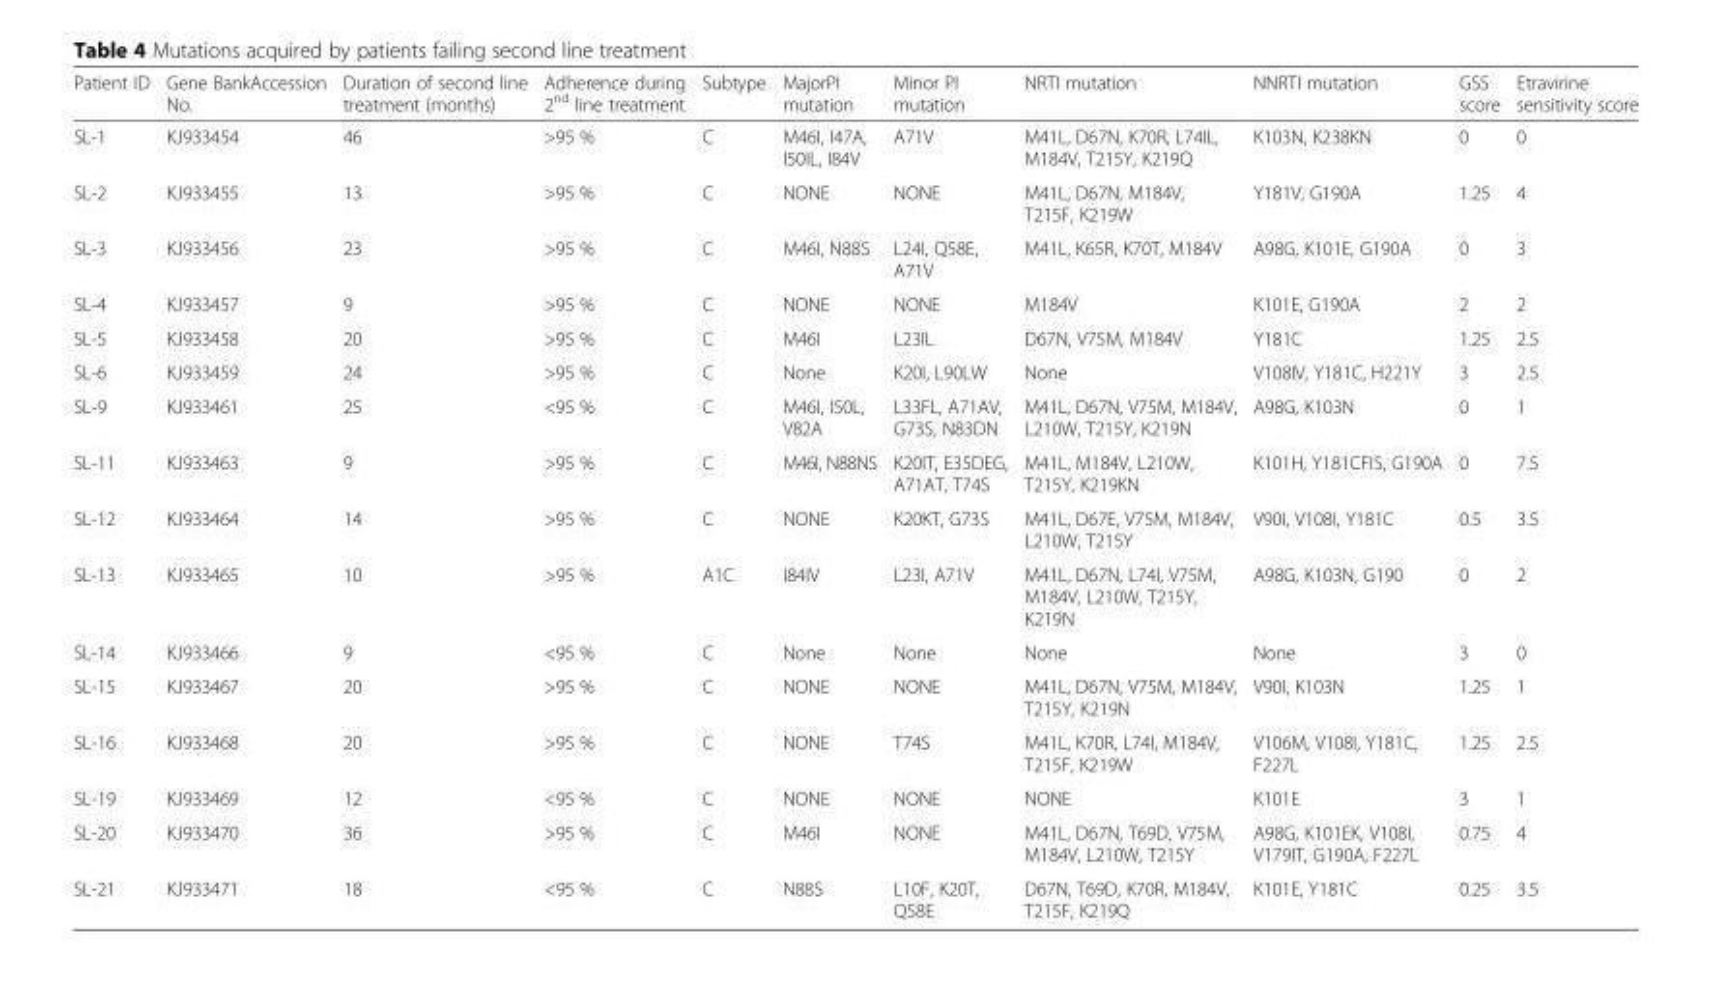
<table><thead><tr><td>Patient ID</td><td>Gene BankAccession No.</td><td>Duration of second line treatment (months)</td><td>Adherence during 2<sup>nd</sup> line treatment</td><td>Subtype</td><td>MajorPI mutation</td><td>Minor PI mutation</td><td>NRTI mutation</td><td>NNRTI mutation</td><td>GSS score</td><td>Etravirine sensitivity score</td></tr></thead><tbody><tr><td>SL-1</td><td>KJ933454</td><td>46</td><td>&gt;95 %</td><td>C</td><td>M46I, I47A, I50IL, I84V</td><td>A71V</td><td>M41L, D67N, K70R, L74IL, M184V, T215Y, K219Q</td><td>K103N, K238KN</td><td>0</td><td>0</td></tr><tr><td>SL-2</td><td>KJ933455</td><td>13</td><td>&gt;95 %</td><td>C</td><td>NONE</td><td>NONE</td><td>M41L, D67N, M184V, T215F, K219W</td><td>Y181V, G190A</td><td>1.25</td><td>4</td></tr><tr><td>SL-3</td><td>KJ933456</td><td>23</td><td>&gt;95 %</td><td>C</td><td>M46I, N88S</td><td>L24I, Q58E, A71V</td><td>M41L, K65R, K70T, M184V</td><td>A98G, K101E, G190A</td><td>0</td><td>3</td></tr><tr><td>SL-4</td><td>KJ933457</td><td>9</td><td>&gt;95 %</td><td>C</td><td>NONE</td><td>NONE</td><td>M184V</td><td>K101E, G190A</td><td>2</td><td>2</td></tr><tr><td>SL-5</td><td>KJ933458</td><td>20</td><td>&gt;95 %</td><td>C</td><td>M46I</td><td>L23IL</td><td>D67N, V75M, M184V</td><td>Y181C</td><td>1.25</td><td>2.5</td></tr><tr><td>SL-6</td><td>KJ933459</td><td>24</td><td>&gt;95 %</td><td>C</td><td>None</td><td>K20I, L90LW</td><td>None</td><td>V108IV, Y181C, H221Y</td><td>3</td><td>2.5</td></tr><tr><td>SL-9</td><td>KJ933461</td><td>25</td><td>&lt;95 %</td><td>C</td><td>M46I, I50L, V82A</td><td>L33FL, A71AV, G73S, N83DN</td><td>M41L, D67N, V75M, M184V, L210W, T215Y, K219N</td><td>A98G, K103N</td><td>0</td><td>1</td></tr><tr><td>SL-11</td><td>KJ933463</td><td>9</td><td>&gt;95 %</td><td>C</td><td>M46I, N88NS</td><td>K20IT, E35DEG, A71AT, T74S</td><td>M41L, M184V, L210W, T215Y, K219KN</td><td>K101H, Y181CFIS, G190A</td><td>0</td><td>7.5</td></tr><tr><td>SL-12</td><td>KJ933464</td><td>14</td><td>&gt;95 %</td><td>C</td><td>NONE</td><td>K20KT, G73S</td><td>M41L, D67E, V75M, M184V, L210W, T215Y</td><td>V90I, V108I, Y181C</td><td>0.5</td><td>3.5</td></tr><tr><td>SL-13</td><td>KJ933465</td><td>10</td><td>&gt;95 %</td><td>A1C</td><td>I84IV</td><td>L23I, A71V</td><td>M41L, D67N, L74I, V75M, M184V, L210W, T215Y, K219N</td><td>A98G, K103N, G190</td><td>0</td><td>2</td></tr><tr><td>SL-14</td><td>KJ933466</td><td>9</td><td>&lt;95 %</td><td>C</td><td>None</td><td>None</td><td>None</td><td>None</td><td>3</td><td>0</td></tr><tr><td>SL-15</td><td>KJ933467</td><td>20</td><td>&gt;95 %</td><td>C</td><td>NONE</td><td>NONE</td><td>M41L, D67N, V75M, M184V, T215Y, K219N</td><td>V90I, K103N</td><td>1.25</td><td>1</td></tr><tr><td>SL-16</td><td>KJ933468</td><td>20</td><td>&gt;95 %</td><td>C</td><td>NONE</td><td>T74S</td><td>M41L, K70R, L74I, M184V, T215F, K219W</td><td>V106M, V108I, Y181C, F227L</td><td>1.25</td><td>2.5</td></tr><tr><td>SL-19</td><td>KJ933469</td><td>12</td><td>&lt;95 %</td><td>C</td><td>NONE</td><td>NONE</td><td>NONE</td><td>K101E</td><td>3</td><td>1</td></tr><tr><td>SL-20</td><td>KJ933470</td><td>36</td><td>&gt;95 %</td><td>C</td><td>M46I</td><td>NONE</td><td>M41L, D67N, T69D, V75M, M184V, L210W, T215Y</td><td>A98G, K101EK, V108I, V179IT, G190A, F227L</td><td>0.75</td><td>4</td></tr><tr><td>SL-21</td><td>KJ933471</td><td>18</td><td>&lt;95 %</td><td>C</td><td>N88S</td><td>L10F, K20T, Q58E</td><td>D67N, T69D, K70R, M184V, T215F, K219Q</td><td>K101E, Y181C</td><td>0.25</td><td>3.5</td></tr></tbody></table>